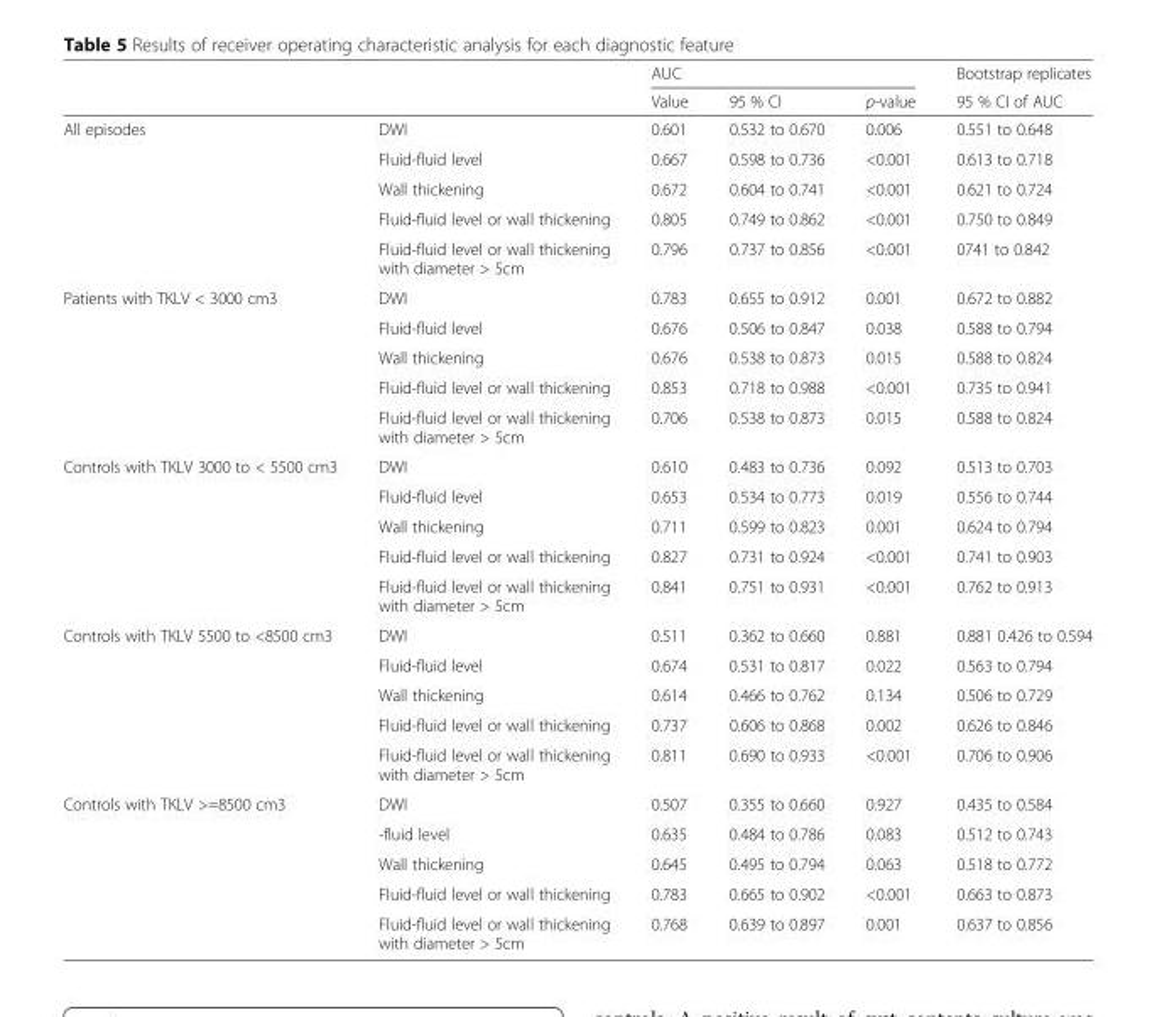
<table><thead><tr><td rowspan="2"></td><td rowspan="2"></td><td colspan="3">AUC</td><td rowspan="2">Bootstrap replicates 95 % CI of AUC</td></tr><tr><td>Value</td><td>95 % CI</td><td>p-value</td></tr></thead><tbody><tr><td rowspan="5">All episodes</td><td>DWI</td><td>0.601</td><td>0.532 to 0.670</td><td>0.006</td><td>0.551 to 0.648</td></tr><tr><td>Fluid-fluid level</td><td>0.667</td><td>0.598 to 0.736</td><td>&lt;0.001</td><td>0.613 to 0.718</td></tr><tr><td>Wall thickening</td><td>0.672</td><td>0.604 to 0.741</td><td>&lt;0.001</td><td>0.621 to 0.724</td></tr><tr><td>Fluid-fluid level or wall thickening</td><td>0.805</td><td>0.749 to 0.862</td><td>&lt;0.001</td><td>0.750 to 0.849</td></tr><tr><td>Fluid-fluid level or wall thickening with diameter &gt; 5cm</td><td>0.796</td><td>0.737 to 0.856</td><td>&lt;0.001</td><td>0741 to 0.842</td></tr><tr><td rowspan="5">Patients with TKLV &lt; 3000 cm3</td><td>DWI</td><td>0.783</td><td>0.655 to 0.912</td><td>0.001</td><td>0.672 to 0.882</td></tr><tr><td>Fluid-fluid level</td><td>0.676</td><td>0.506 to 0.847</td><td>0.038</td><td>0.588 to 0.794</td></tr><tr><td>Wall thickening</td><td>0.676</td><td>0.538 to 0.873</td><td>0.015</td><td>0.588 to 0.824</td></tr><tr><td>Fluid-fluid level or wall thickening</td><td>0.853</td><td>0.718 to 0.988</td><td>&lt;0.001</td><td>0.735 to 0.941</td></tr><tr><td>Fluid-fluid level or wall thickening with diameter &gt; 5cm</td><td>0.706</td><td>0.538 to 0.873</td><td>0.015</td><td>0.588 to 0.824</td></tr><tr><td rowspan="5">Controls with TKLV 3000 to &lt; 5500 cm3</td><td>DWI</td><td>0.610</td><td>0.483 to 0.736</td><td>0.092</td><td>0.513 to 0.703</td></tr><tr><td>Fluid-fluid level</td><td>0.653</td><td>0.534 to 0.773</td><td>0.019</td><td>0.556 to 0.744</td></tr><tr><td>Wall thickening</td><td>0.711</td><td>0.599 to 0.823</td><td>0.001</td><td>0.624 to 0.794</td></tr><tr><td>Fluid-fluid level or wall thickening</td><td>0.827</td><td>0.731 to 0.924</td><td>&lt;0.001</td><td>0.741 to 0.903</td></tr><tr><td>Fluid-fluid level or wall thickening with diameter &gt; 5cm</td><td>0.841</td><td>0.751 to 0.931</td><td>&lt;0.001</td><td>0.762 to 0.913</td></tr><tr><td rowspan="5">Controls with TKLV 5500 to &lt;8500 cm3</td><td>DWI</td><td>0.511</td><td>0.362 to 0.660</td><td>0.881</td><td>0.881 0.426 to 0.594</td></tr><tr><td>Fluid-fluid level</td><td>0.674</td><td>0.531 to 0.817</td><td>0.022</td><td>0.563 to 0.794</td></tr><tr><td>Wall thickening</td><td>0.614</td><td>0.466 to 0.762</td><td>0.134</td><td>0.506 to 0.729</td></tr><tr><td>Fluid-fluid level or wall thickening</td><td>0.737</td><td>0.606 to 0.868</td><td>0.002</td><td>0.626 to 0.846</td></tr><tr><td>Fluid-fluid level or wall thickening with diameter &gt; 5cm</td><td>0.811</td><td>0.690 to 0.933</td><td>&lt;0.001</td><td>0.706 to 0.906</td></tr><tr><td rowspan="5">Controls with TKLV &gt;=8500 cm3</td><td>DWI</td><td>0.507</td><td>0.355 to 0.660</td><td>0.927</td><td>0.435 to 0.584</td></tr><tr><td>-fluid level</td><td>0.635</td><td>0.484 to 0.786</td><td>0.083</td><td>0.512 to 0.743</td></tr><tr><td>Wall thickening</td><td>0.645</td><td>0.495 to 0.794</td><td>0.063</td><td>0.518 to 0.772</td></tr><tr><td>Fluid-fluid level or wall thickening</td><td>0.783</td><td>0.665 to 0.902</td><td>&lt;0.001</td><td>0.663 to 0.873</td></tr><tr><td>Fluid-fluid level or wall thickening with diameter &gt; 5cm</td><td>0.768</td><td>0.639 to 0.897</td><td>0.001</td><td>0.637 to 0.856</td></tr></tbody></table>